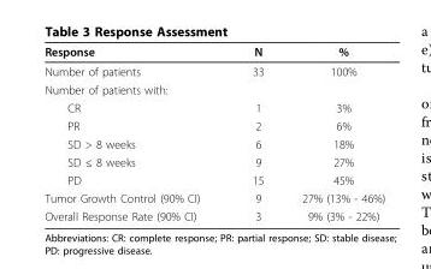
<table><thead><tr><td>Response</td><td>N</td><td>%</td></tr></thead><tbody><tr><td>Number of patients</td><td>33</td><td>100%</td></tr><tr><td colspan="3">Number of patients with:</td></tr><tr><td>CR</td><td>1</td><td>3%</td></tr><tr><td>PR</td><td>2</td><td>6%</td></tr><tr><td>SD &gt; 8 weeks</td><td>6</td><td>18%</td></tr><tr><td>SD ≤ 8 weeks</td><td>9</td><td>27%</td></tr><tr><td>PD</td><td>15</td><td>45%</td></tr><tr><td>Tumor Growth Control (90% CI)</td><td>9</td><td>27% (13% - 46%)</td></tr><tr><td>Overall Response Rate (90% CI)</td><td>3</td><td>9% (3% - 22%)</td></tr></tbody></table>